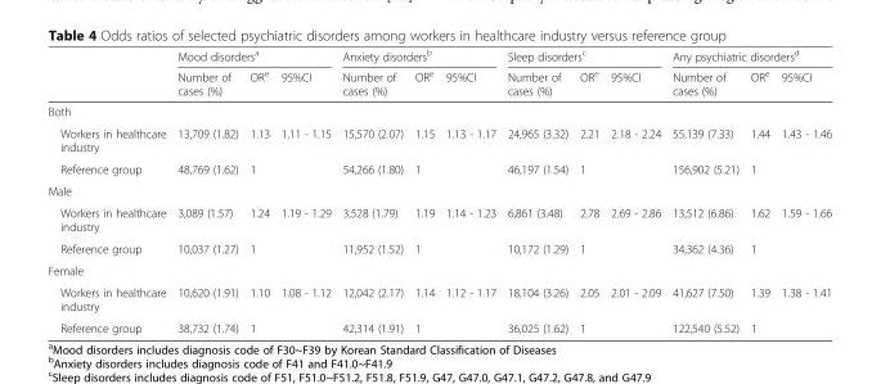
<table><thead><tr><td rowspan="2"></td><td colspan="3">Mood disorders<sup>a</sup></td><td colspan="3">Anxiety disorders<sup>b</sup></td><td colspan="3">Sleep disorders<sup>c</sup></td><td colspan="3">Any psychiatric disorders<sup>d</sup></td></tr><tr><td>Number of cases (%)</td><td>OR<sup>e</sup></td><td>95%CI</td><td>Number of cases (%)</td><td>OR<sup>e</sup></td><td>95%CI</td><td>Number of cases (%)</td><td>OR<sup>e</sup></td><td>95%CI</td><td>Number of cases (%)</td><td>OR<sup>e</sup></td><td>95%CI</td></tr></thead><tbody><tr><td colspan="13">Both</td></tr><tr><td>Workers in healthcare industry</td><td>13,709 (1.82)</td><td>1.13</td><td rowspan="2">1.11 - 1.15</td><td>15,570 (2.07)</td><td>1.15</td><td rowspan="2">1.13 - 1.17</td><td>24,965 (3.32)</td><td>2.21</td><td rowspan="2">2.18 - 2.24</td><td>55,139 (7.33)</td><td>1.44</td><td rowspan="2">1.43 - 1.46</td></tr><tr><td>Reference group</td><td>48,769 (1.62)</td><td>1</td><td>54,266 (1.80)</td><td>1</td><td>46,197 (1.54)</td><td>1</td><td>156,902 (5.21)</td><td>1</td></tr><tr><td colspan="13">Male</td></tr><tr><td>Workers in healthcare industry</td><td>3,089 (1.57)</td><td>1.24</td><td rowspan="2">1.19 - 1.29</td><td>3,528 (1.79)</td><td>1.19</td><td rowspan="2">1.14 - 1.23</td><td>6,861 (3.48)</td><td>2.78</td><td rowspan="2">2.69 - 2.86</td><td>13,512 (6.86)</td><td>1.62</td><td rowspan="2">1.59 - 1.66</td></tr><tr><td>Reference group</td><td>10,037 (1.27)</td><td>1</td><td>11,952 (1.52)</td><td>1</td><td>10,172 (1.29)</td><td>1</td><td>34,362 (4.36)</td><td>1</td></tr><tr><td colspan="13">Female</td></tr><tr><td>Workers in healthcare industry</td><td>10,620 (1.91)</td><td>1.10</td><td rowspan="2">1.08 - 1.12</td><td>12,042 (2.17)</td><td>1.14</td><td rowspan="2">1.12 - 1.17</td><td>18,104 (3.26)</td><td>2.05</td><td rowspan="2">2.01 - 2.09</td><td>41,627 (7.50)</td><td>1.39</td><td rowspan="2">1.38 - 1.41</td></tr><tr><td>Reference group</td><td>38,732 (1.74)</td><td>1</td><td>42,314 (1.91)</td><td>1</td><td>36,025 (1.62)</td><td>1</td><td>122,540 (5.52)</td><td>1</td></tr></tbody></table>